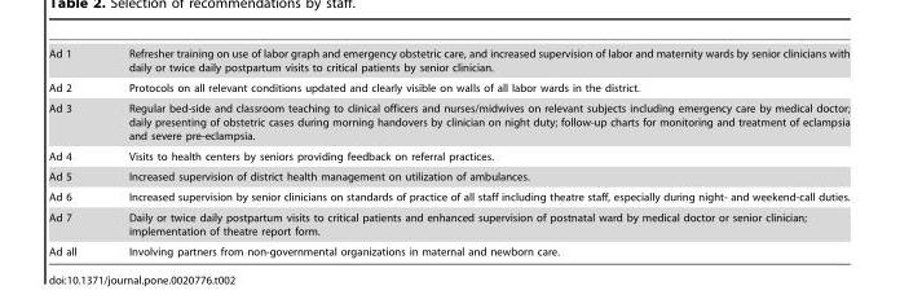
<table><tbody><tr><td>Ad 1</td><td>Refresher training on use of labor graph and emergency obstetric care, and increased supervision of labor and maternity wards by senior clinicians with daily or twice daily postpartum visits to critical patients by senior clinician.</td></tr><tr><td>Ad 2</td><td>Protocols on all relevant conditions updated and clearly visible on walls of all labor wards in the district.</td></tr><tr><td>Ad 3</td><td>Regular bed-side and classroom teaching to clinical officers and nurses/midwives on relevant subjects including emergency care by medical doctor; daily presenting of obstetric cases during morning handovers by clinician on night duty; follow-up charts for monitoring and treatment of eclampsia and severe pre-eclampsia.</td></tr><tr><td>Ad 4</td><td>Visits to health centers by seniors providing feedback on referral practices.</td></tr><tr><td>Ad 5</td><td>Increased supervision of district health management on utilization of ambulances.</td></tr><tr><td>Ad 6</td><td>Increased supervision by senior clinicians on standards of practice of all staff including theatre staff, especially during night- and weekend-call duties.</td></tr><tr><td>Ad 7</td><td>Daily or twice daily postpartum visits to critical patients and enhanced supervision of postnatal ward by medical doctor or senior clinician; implementation of theatre report form.</td></tr><tr><td>Ad all</td><td>Involving partners from non-governmental organizations in maternal and newborn care.</td></tr></tbody></table>